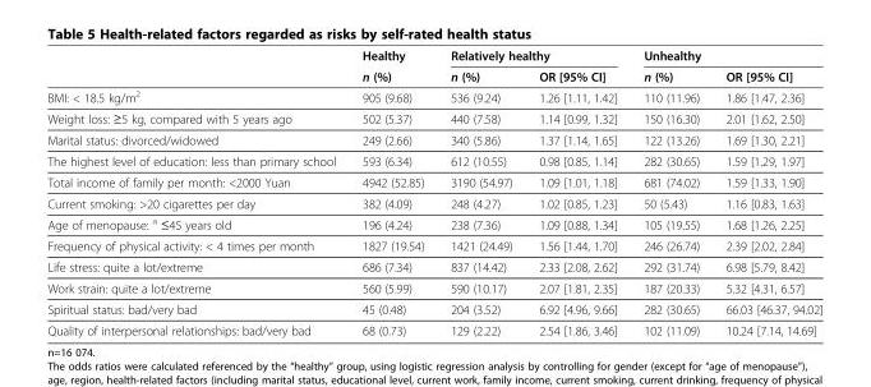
<table><thead><tr><td rowspan="2"></td><td rowspan="2">Healthy n (%)</td><td colspan="2">Relatively healthy</td><td colspan="2">Unhealthy</td></tr><tr><td>n (%)</td><td>OR [95% CI]</td><td>n (%)</td><td>OR [95% CI]</td></tr></thead><tbody><tr><td>BMI: &lt; 18.5 kg/m<sup>2</sup></td><td>905 (9.68)</td><td>536 (9.24)</td><td>1.26 [1.11, 1.42]</td><td>110 (11.96)</td><td>1.86 [1.47, 2.36]</td></tr><tr><td>Weight loss: ≥5 kg, compared with 5 years ago</td><td>502 (5.37)</td><td>440 (7.58)</td><td>1.14 [0.99, 1.32]</td><td>150 (16.30)</td><td>2.01 [1.62, 2.50]</td></tr><tr><td>Marital status: divorced/widowed</td><td>249 (2.66)</td><td>340 (5.86)</td><td>1.37 [1.14, 1.65]</td><td>122 (13.26)</td><td>1.69 [1.30, 2.21]</td></tr><tr><td>The highest level of education: less than primary school</td><td>593 (6.34)</td><td>612 (10.55)</td><td>0.98 [0.85, 1.14]</td><td>282 (30.65)</td><td>1.59 [1.29, 1.97]</td></tr><tr><td>Total income of family per month: &lt;2000 Yuan</td><td>4942 (52.85)</td><td>3190 (54.97)</td><td>1.09 [1.01, 1.18]</td><td>681 (74.02)</td><td>1.59 [1.33, 1.90]</td></tr><tr><td>Current smoking: &gt;20 cigarettes per day</td><td>382 (4.09)</td><td>248 (4.27)</td><td>1.02 [0.85, 1.23]</td><td>50 (5.43)</td><td>1.16 [0.83, 1.63]</td></tr><tr><td>Age of menopause: <sup>a</sup> ≤45 years old</td><td>196 (4.24)</td><td>238 (7.36)</td><td>1.09 [0.88, 1.34]</td><td>105 (19.55)</td><td>1.68 [1.26, 2.25]</td></tr><tr><td>Frequency of physical activity: &lt; 4 times per month</td><td>1827 (19.54)</td><td>1421 (24.49)</td><td>1.56 [1.44, 1.70]</td><td>246 (26.74)</td><td>2.39 [2.02, 2.84]</td></tr><tr><td>Life stress: quite a lot/extreme</td><td>686 (7.34)</td><td>837 (14.42)</td><td>2.33 [2.08, 2.62]</td><td>292 (31.74)</td><td>6.98 [5.79, 8.42]</td></tr><tr><td>Work strain: quite a lot/extreme</td><td>560 (5.99)</td><td>590 (10.17)</td><td>2.07 [1.81, 2.35]</td><td>187 (20.33)</td><td>5.32 [4.31, 6.57]</td></tr><tr><td>Spiritual status: bad/very bad</td><td>45 (0.48)</td><td>204 (3.52)</td><td>6.92 [4.96, 9.66]</td><td>282 (30.65)</td><td>66.03 [46.37, 94.02]</td></tr><tr><td>Quality of interpersonal relationships: bad/very bad</td><td>68 (0.73)</td><td>129 (2.22)</td><td>2.54 [1.86, 3.46]</td><td>102 (11.09)</td><td>10.24 [7.14, 14.69]</td></tr></tbody></table>